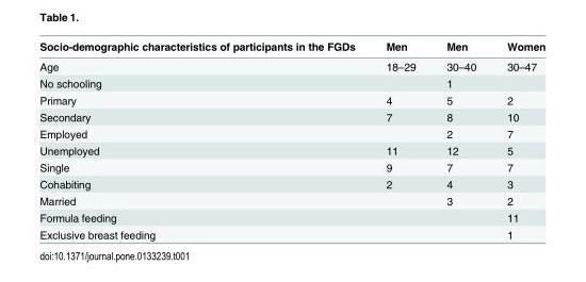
<table><thead><tr><td>Socio-demographic characteristics of participants in the FGDs</td><td>Men</td><td>Men</td><td>Women</td></tr></thead><tbody><tr><td>Age</td><td>18–29</td><td>30–40</td><td>30–47</td></tr><tr><td>No schooling</td><td></td><td>1</td><td></td></tr><tr><td>Primary</td><td>4</td><td>5</td><td>2</td></tr><tr><td>Secondary</td><td>7</td><td>8</td><td>10</td></tr><tr><td>Employed</td><td></td><td>2</td><td>7</td></tr><tr><td>Unemployed</td><td>11</td><td>12</td><td>5</td></tr><tr><td>Single</td><td>9</td><td>7</td><td>7</td></tr><tr><td>Cohabiting</td><td>2</td><td>4</td><td>3</td></tr><tr><td>Married</td><td></td><td>3</td><td>2</td></tr><tr><td>Formula feeding</td><td></td><td></td><td>11</td></tr><tr><td>Exclusive breast feeding</td><td></td><td></td><td>1</td></tr></tbody></table>